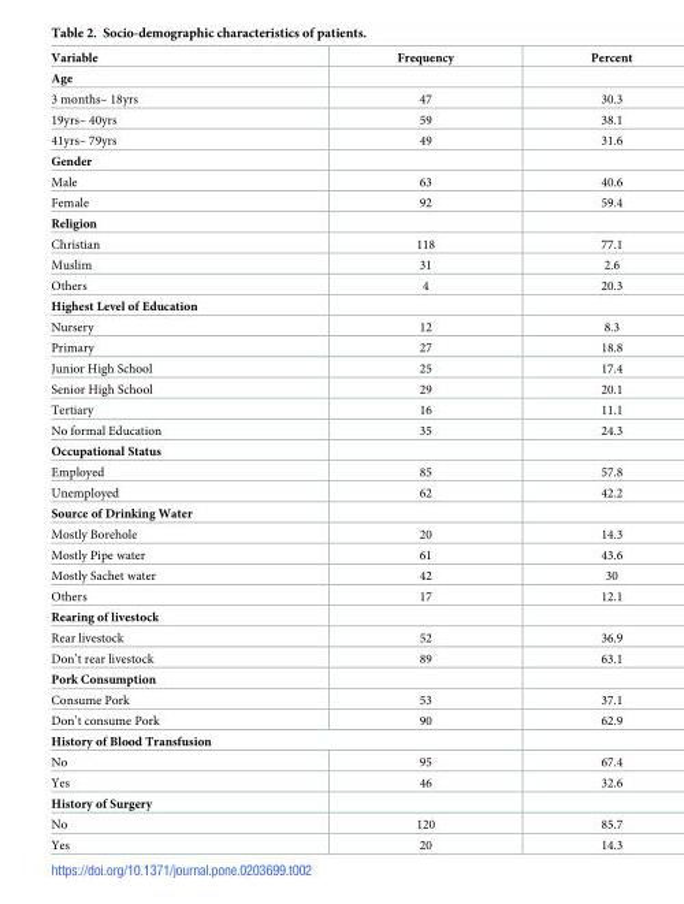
<table><thead><tr><td>Variable</td><td>Frequency</td><td>Percent</td></tr></thead><tbody><tr><td colspan="3">Age</td></tr><tr><td>3 months– 18yrs</td><td>47</td><td>30.3</td></tr><tr><td>19yrs– 40yrs</td><td>59</td><td>38.1</td></tr><tr><td>41yrs– 79yrs</td><td>49</td><td>31.6</td></tr><tr><td colspan="3">Gender</td></tr><tr><td>Male</td><td>63</td><td>40.6</td></tr><tr><td>Female</td><td>92</td><td>59.4</td></tr><tr><td colspan="3">Religion</td></tr><tr><td>Christian</td><td>118</td><td>77.1</td></tr><tr><td>Muslim</td><td>31</td><td>2.6</td></tr><tr><td>Others</td><td>4</td><td>20.3</td></tr><tr><td colspan="3">Highest Level of Education</td></tr><tr><td>Nursery</td><td>12</td><td>8.3</td></tr><tr><td>Primary</td><td>27</td><td>18.8</td></tr><tr><td>Junior High School</td><td>25</td><td>17.4</td></tr><tr><td>Senior High School</td><td>29</td><td>20.1</td></tr><tr><td>Tertiary</td><td>16</td><td>11.1</td></tr><tr><td>No formal Education</td><td>35</td><td>24.3</td></tr><tr><td colspan="3">Occupational Status</td></tr><tr><td>Employed</td><td>85</td><td>57.8</td></tr><tr><td>Unemployed</td><td>62</td><td>42.2</td></tr><tr><td colspan="3">Source of Drinking Water</td></tr><tr><td>Mostly Borehole</td><td>20</td><td>14.3</td></tr><tr><td>Mostly Pipe water</td><td>61</td><td>43.6</td></tr><tr><td>Mostly Sachet water</td><td>42</td><td>30</td></tr><tr><td>Others</td><td>17</td><td>12.1</td></tr><tr><td colspan="3">Rearing of livestock</td></tr><tr><td>Rear livestock</td><td>52</td><td>36.9</td></tr><tr><td>Don’t rear livestock</td><td>89</td><td>63.1</td></tr><tr><td colspan="3">Pork Consumption</td></tr><tr><td>Consume Pork</td><td>53</td><td>37.1</td></tr><tr><td>Don’t consume Pork</td><td>90</td><td>62.9</td></tr><tr><td colspan="3">History of Blood Transfusion</td></tr><tr><td>No</td><td>95</td><td>67.4</td></tr><tr><td>Yes</td><td>46</td><td>32.6</td></tr><tr><td colspan="3">History of Surgery</td></tr><tr><td>No</td><td>120</td><td>85.7</td></tr><tr><td>Yes</td><td>20</td><td>14.3</td></tr></tbody></table>